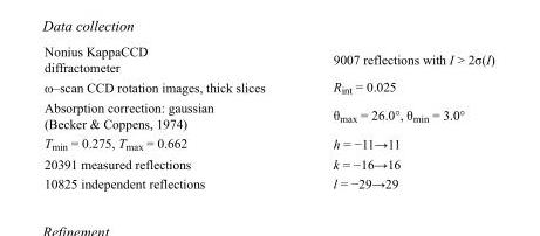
<table><tbody><tr><td>Nonius KappaCCD diffractometer</td><td>9007 reflections with I &gt; 2σ(I)</td></tr><tr><td>ω–scan CCD rotation images, thick slices</td><td>R<sub>int</sub> = 0.025</td></tr><tr><td>Absorption correction: gaussian (Becker &amp; Coppens, 1974)</td><td>θ<sub>max</sub> = 26.0°, θ<sub>min</sub> = 3.0°</td></tr><tr><td>T<sub>min</sub> = 0.275, T<sub>max</sub> = 0.662</td><td>h = −11→11</td></tr><tr><td>20391 measured reflections</td><td>k = −16→16</td></tr><tr><td>10825 independent reflections</td><td>l = −29→29</td></tr></tbody></table>